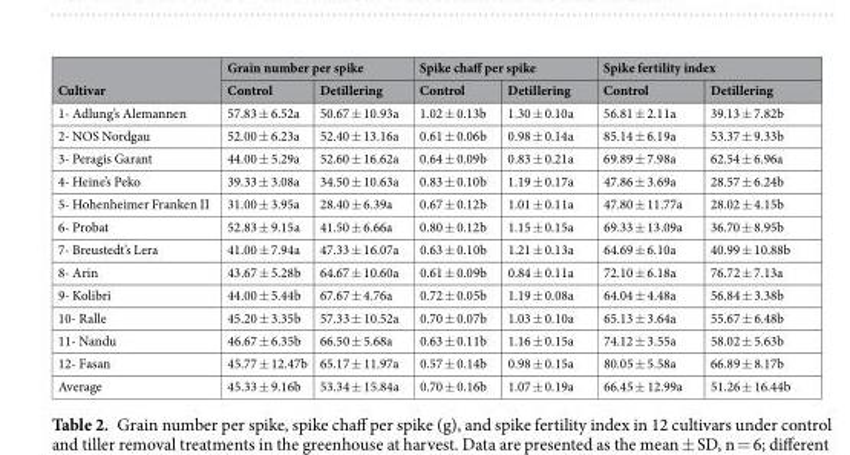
<table><thead><tr><td rowspan="2">Cultivar</td><td colspan="2">Grain number per spike</td><td colspan="2">Spike chaff per spike</td><td colspan="2">Spike fertility index</td></tr><tr><td>Control</td><td>Detillering</td><td>Control</td><td>Detillering</td><td>Control</td><td>Detillering</td></tr></thead><tbody><tr><td>1- Adlung’s Alemannen</td><td>57.83 ± 6.52a</td><td>50.67 ± 10.93a</td><td>1.02 ± 0.13b</td><td>1.30 ± 0.10a</td><td>56.81 ± 2.11a</td><td>39.13 ± 7.82b</td></tr><tr><td>2- NOS Nordgau</td><td>52.00 ± 6.23a</td><td>52.40 ± 13.16a</td><td>0.61 ± 0.06b</td><td>0.98 ± 0.14a</td><td>85.14 ± 6.19a</td><td>53.37 ± 9.33b</td></tr><tr><td>3- Peragis Garant</td><td>44.00 ± 5.29a</td><td>52.60 ± 16.62a</td><td>0.64 ± 0.09b</td><td>0.83 ± 0.21a</td><td>69.89 ± 7.98a</td><td>62.54 ± 6.96a</td></tr><tr><td>4- Heine’s Peko</td><td>39.33 ± 3.08a</td><td>34.50 ± 10.63a</td><td>0.83 ± 0.10b</td><td>1.19 ± 0.17a</td><td>47.86 ± 3.69a</td><td>28.57 ± 6.24b</td></tr><tr><td>5- Hohenheimer Franken II</td><td>31.00 ± 3.95a</td><td>28.40 ± 6.39a</td><td>0.67 ± 0.12b</td><td>1.01 ± 0.11a</td><td>47.80 ± 11.77a</td><td>28.02 ± 4.15b</td></tr><tr><td>6- Probat</td><td>52.83 ± 9.15a</td><td>41.50 ± 6.66a</td><td>0.80 ± 0.12b</td><td>1.15 ± 0.15a</td><td>69.33 ± 13.09a</td><td>36.70 ± 8.95b</td></tr><tr><td>7- Breustedt’s Lera</td><td>41.00 ± 7.94a</td><td>47.33 ± 16.07a</td><td>0.63 ± 0.10b</td><td>1.21 ± 0.13a</td><td>64.69 ± 6.10a</td><td>40.99 ± 10.88b</td></tr><tr><td>8- Arin</td><td>43.67 ± 5.28b</td><td>64.67 ± 10.60a</td><td>0.61 ± 0.09b</td><td>0.84 ± 0.11a</td><td>72.10 ± 6.18a</td><td>76.72 ± 7.13a</td></tr><tr><td>9- Kolibri</td><td>44.00 ± 5.44b</td><td>67.67 ± 4.76a</td><td>0.72 ± 0.05b</td><td>1.19 ± 0.08a</td><td>64.04 ± 4.48a</td><td>56.84 ± 3.38b</td></tr><tr><td>10- Ralle</td><td>45.20 ± 3.35b</td><td>57.33 ± 10.52a</td><td>0.70 ± 0.07b</td><td>1.03 ± 0.10a</td><td>65.13 ± 3.64a</td><td>55.67 ± 6.48b</td></tr><tr><td>11- Nandu</td><td>46.67 ± 6.35b</td><td>66.50 ± 5.68a</td><td>0.63 ± 0.11b</td><td>1.16 ± 0.15a</td><td>74.12 ± 3.55a</td><td>58.02 ± 5.63b</td></tr><tr><td>12- Fasan</td><td>45.77 ± 12.47b</td><td>65.17 ± 11.97a</td><td>0.57 ± 0.14b</td><td>0.98 ± 0.15a</td><td>80.05 ± 5.58a</td><td>66.89 ± 8.17b</td></tr><tr><td>Average</td><td>45.33 ± 9.16b</td><td>53.34 ± 15.84a</td><td>0.70 ± 0.16b</td><td>1.07 ± 0.19a</td><td>66.45 ± 12.99a</td><td>51.26 ± 16.44b</td></tr></tbody></table>